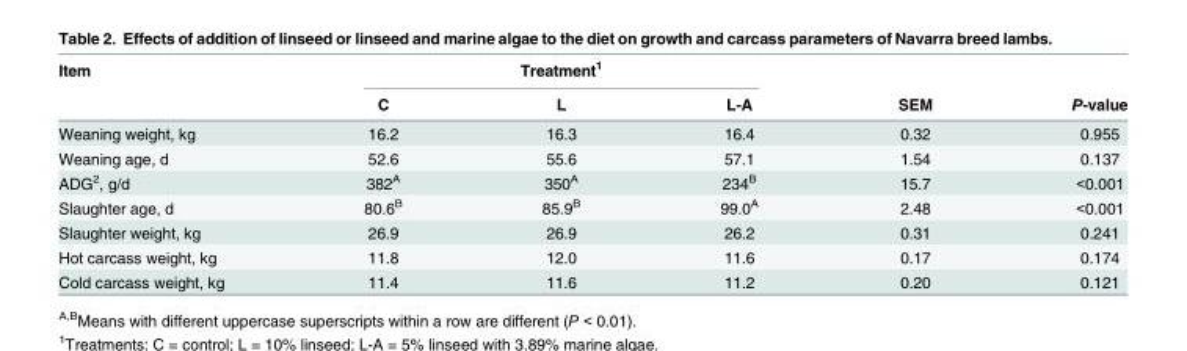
<table><thead><tr><td rowspan="2">Item</td><td colspan="3">Treatment<sup>1</sup></td><td rowspan="2">SEM</td><td rowspan="2">P-value</td></tr><tr><td>C</td><td>L</td><td>L-A</td></tr></thead><tbody><tr><td>Weaning weight, kg</td><td>16.2</td><td>16.3</td><td>16.4</td><td>0.32</td><td>0.955</td></tr><tr><td>Weaning age, d</td><td>52.6</td><td>55.6</td><td>57.1</td><td>1.54</td><td>0.137</td></tr><tr><td>ADG<sup>2</sup>, g/d</td><td>382<sup>A</sup></td><td>350<sup>A</sup></td><td>234<sup>B</sup></td><td>15.7</td><td>&lt;0.001</td></tr><tr><td>Slaughter age, d</td><td>80.6<sup>B</sup></td><td>85.9<sup>B</sup></td><td>99.0<sup>A</sup></td><td>2.48</td><td>&lt;0.001</td></tr><tr><td>Slaughter weight, kg</td><td>26.9</td><td>26.9</td><td>26.2</td><td>0.31</td><td>0.241</td></tr><tr><td>Hot carcass weight, kg</td><td>11.8</td><td>12.0</td><td>11.6</td><td>0.17</td><td>0.174</td></tr><tr><td>Cold carcass weight, kg</td><td>11.4</td><td>11.6</td><td>11.2</td><td>0.20</td><td>0.121</td></tr></tbody></table>